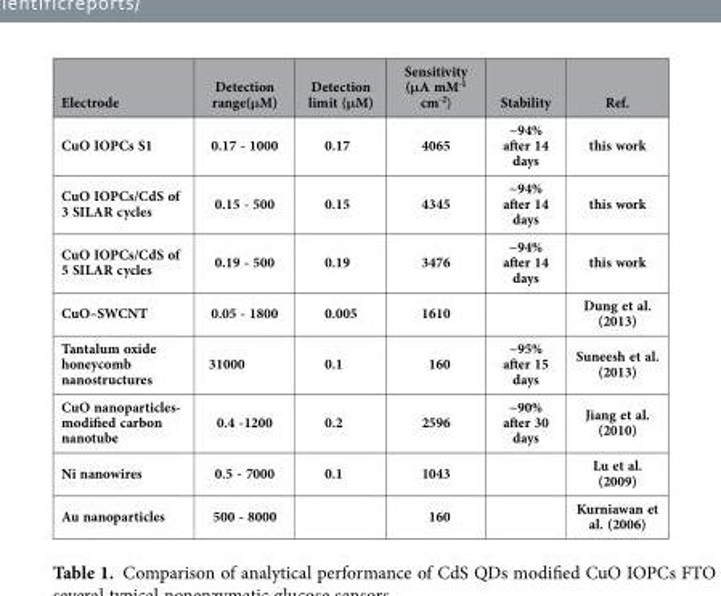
<table><thead><tr><td>Electrode</td><td>Detection range(μM)</td><td>Detection limit (μM)</td><td>Sensitivity (μA mM<sup>-1</sup> cm<sup>-2</sup>)</td><td>Stability</td><td>Ref.</td></tr></thead><tbody><tr><td>CuO IOPCs S1</td><td>0.17 - 1000</td><td>0.17</td><td>4065</td><td>~94% after 14 days</td><td>this work</td></tr><tr><td>CuO IOPCs/CdS of 3 SILAR cycles</td><td>0.15 - 500</td><td>0.15</td><td>4345</td><td>~94% after 14 days</td><td>this work</td></tr><tr><td>CuO IOPCs/CdS of 5 SILAR cycles</td><td>0.19 - 500</td><td>0.19</td><td>3476</td><td>~94% after 14 days</td><td>this work</td></tr><tr><td>CuO–SWCNT</td><td>0.05 - 1800</td><td>0.005</td><td>1610</td><td></td><td>Dung et al. (2013)</td></tr><tr><td>Tantalum oxide honeycomb nanostructures</td><td>31000</td><td>0.1</td><td>160</td><td>~95% after 15 days</td><td>Suneesh et al. (2013)</td></tr><tr><td>CuO nanoparticles- modified carbon nanotube</td><td>0.4 -1200</td><td>0.2</td><td>2596</td><td>~90% after 30 days</td><td>Jiang et al. (2010)</td></tr><tr><td>Ni nanowires</td><td>0.5 - 7000</td><td>0.1</td><td>1043</td><td></td><td>Lu et al. (2009)</td></tr><tr><td>Au nanoparticles</td><td>500 - 8000</td><td></td><td>160</td><td></td><td>Kurniawan et al. (2006)</td></tr></tbody></table>